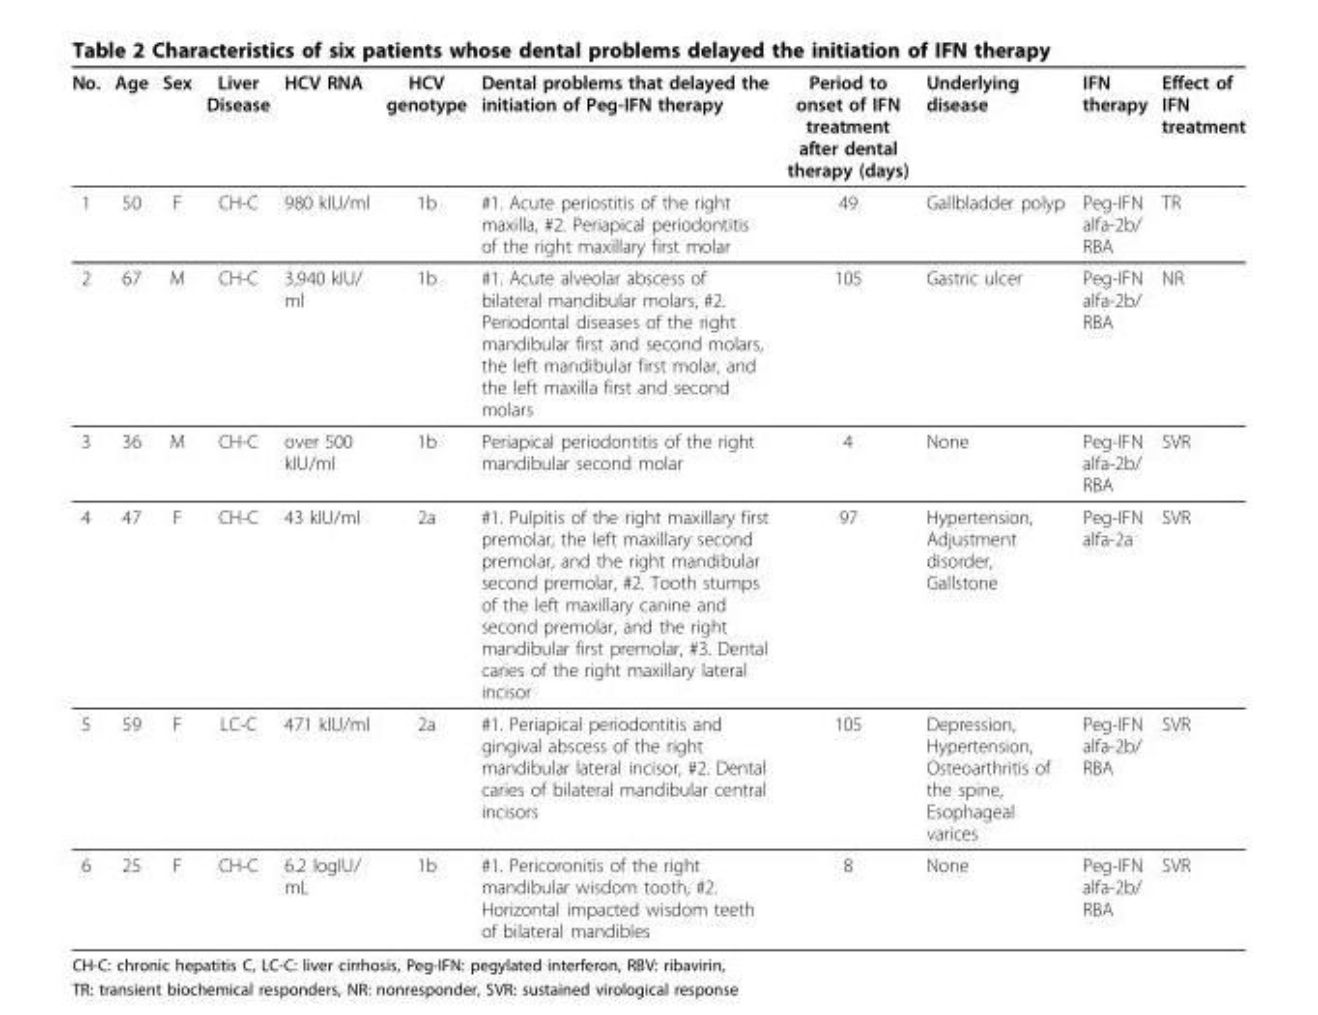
<table><thead><tr><td>No.</td><td>Age</td><td>Sex</td><td>Liver Disease</td><td>HCV RNA</td><td>HCV genotype</td><td>Dental problems that delayed the initiation of Peg-IFN therapy</td><td>Period to onset of IFN treatment after dental therapy (days)</td><td>Underlying disease</td><td>IFN therapy</td><td>Effect of IFN treatment</td></tr></thead><tbody><tr><td>1</td><td>50</td><td>F</td><td>CH-C</td><td>980 kIU/ml</td><td>1b</td><td>#1. Acute periostitis of the right maxilla, #2. Periapical periodontitis of the right maxillary first molar</td><td>49</td><td>Gallbladder polyp</td><td>Peg-IFN alfa-2b/ RBA</td><td>TR</td></tr><tr><td>2</td><td>67</td><td>M</td><td>CH-C</td><td>3,940 kIU/ ml</td><td>1b</td><td>#1. Acute alveolar abscess of bilateral mandibular molars, #2. Periodontal diseases of the right mandibular first and second molars, the left mandibular first molar, and the left maxilla first and second molars</td><td>105</td><td>Gastric ulcer</td><td>Peg-IFN alfa-2b/ RBA</td><td>NR</td></tr><tr><td>3</td><td>36</td><td>M</td><td>CH-C</td><td>over 500 kIU/ml</td><td>1b</td><td>Periapical periodontitis of the right mandibular second molar</td><td>4</td><td>None</td><td>Peg-IFN alfa-2b/ RBA</td><td>SVR</td></tr><tr><td>4</td><td>47</td><td>F</td><td>CH-C</td><td>43 kIU/ml</td><td>2a</td><td>#1. Pulpitis of the right maxillary first premolar, the left maxillary second premolar, and the right mandibular second premolar, #2. Tooth stumps of the left maxillary canine and second premolar, and the right mandibular first premolar, #3. Dental caries of the right maxillary lateral incisor</td><td>97</td><td>Hypertension, Adjustment disorder, Gallstone</td><td>Peg-IFN alfa-2a</td><td>SVR</td></tr><tr><td>5</td><td>59</td><td>F</td><td>LC-C</td><td>471 kIU/ml</td><td>2a</td><td>#1. Periapical periodontitis and gingival abscess of the right mandibular lateral incisor, #2. Dental caries of bilateral mandibular central incisors</td><td>105</td><td>Depression, Hypertension, Osteoarthritis of the spine, Esophageal varices</td><td>Peg-IFN alfa-2b/ RBA</td><td>SVR</td></tr><tr><td>6</td><td>25</td><td>F</td><td>CH-C</td><td>6.2 logIU/ mL</td><td>1b</td><td>#1. Pericoronitis of the right mandibular wisdom tooth, #2. Horizontal impacted wisdom teeth of bilateral mandibles</td><td>8</td><td>None</td><td>Peg-IFN alfa-2b/ RBA</td><td>SVR</td></tr></tbody></table>